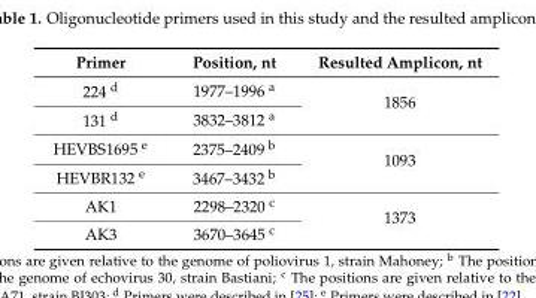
<table><thead><tr><td>Primer</td><td>Position, nt</td><td>Resulted Amplicon, nt</td></tr></thead><tbody><tr><td>224 <sup>d</sup></td><td>1977–1996 <sup>a</sup></td><td rowspan="2">1856</td></tr><tr><td>131 <sup>d</sup></td><td>3832–3812 <sup>a</sup></td></tr><tr><td>HEVBS1695 <sup>e</sup></td><td>2375–2409 <sup>b</sup></td><td rowspan="2">1093</td></tr><tr><td>HEVBR132 <sup>e</sup></td><td>3467–3432 <sup>b</sup></td></tr><tr><td>AK1</td><td>2298–2320 <sup>c</sup></td><td rowspan="2">1373</td></tr><tr><td>AK3</td><td>3670–3645 <sup>c</sup></td></tr></tbody></table>